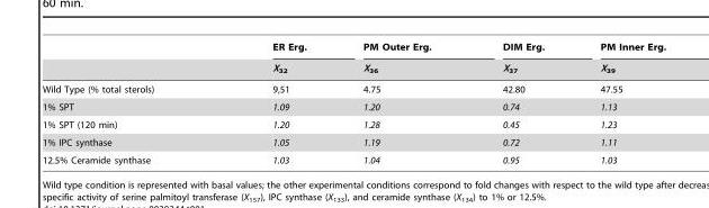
<table><thead><tr><td rowspan="2"></td><td rowspan="2">ER Erg. X<sub>32</sub></td><td rowspan="2">PM Outer Erg. X<sub>36</sub></td><td rowspan="2">DIM Erg. X<sub>37</sub></td><td rowspan="2">PM Inner Erg. X<sub>39</sub></td></tr><tr></tr></thead><tbody><tr><td>Wild Type (% total sterols)</td><td>9,51</td><td>4.75</td><td>42.80</td><td>47.55</td></tr><tr><td>1% SPT</td><td>1.09</td><td>1.20</td><td>0.74</td><td>1.13</td></tr><tr><td>1% SPT (120 min)</td><td>1.20</td><td>1.28</td><td>0.45</td><td>1.23</td></tr><tr><td>1% IPC synthase</td><td>1.05</td><td>1.19</td><td>0.72</td><td>1.11</td></tr><tr><td>12.5% Ceramide synthase</td><td>1.03</td><td>1.04</td><td>0.95</td><td>1.03</td></tr></tbody></table>